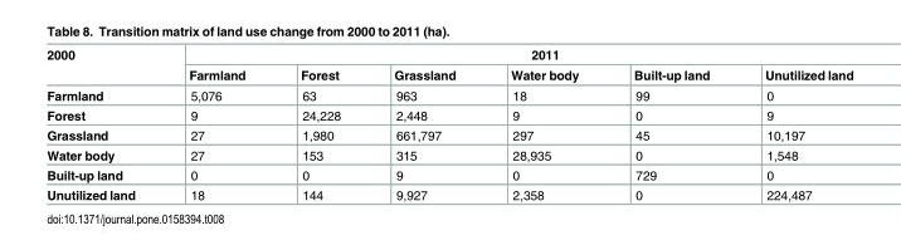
<table><thead><tr><td rowspan="2">2000</td><td colspan="6">2011</td></tr><tr><td>Farmland</td><td>Forest</td><td>Grassland</td><td>Water body</td><td>Built-up land</td><td>Unutilized land</td></tr></thead><tbody><tr><td>Farmland</td><td>5,076</td><td>63</td><td>963</td><td>18</td><td>99</td><td>0</td></tr><tr><td>Forest</td><td>9</td><td>24,228</td><td>2,448</td><td>9</td><td>0</td><td>9</td></tr><tr><td>Grassland</td><td>27</td><td>1,980</td><td>661,797</td><td>297</td><td>45</td><td>10,197</td></tr><tr><td>Water body</td><td>27</td><td>153</td><td>315</td><td>28,935</td><td>0</td><td>1,548</td></tr><tr><td>Built-up land</td><td>0</td><td>0</td><td>9</td><td>0</td><td>729</td><td>0</td></tr><tr><td>Unutilized land</td><td>18</td><td>144</td><td>9,927</td><td>2,358</td><td>0</td><td>224,487</td></tr></tbody></table>